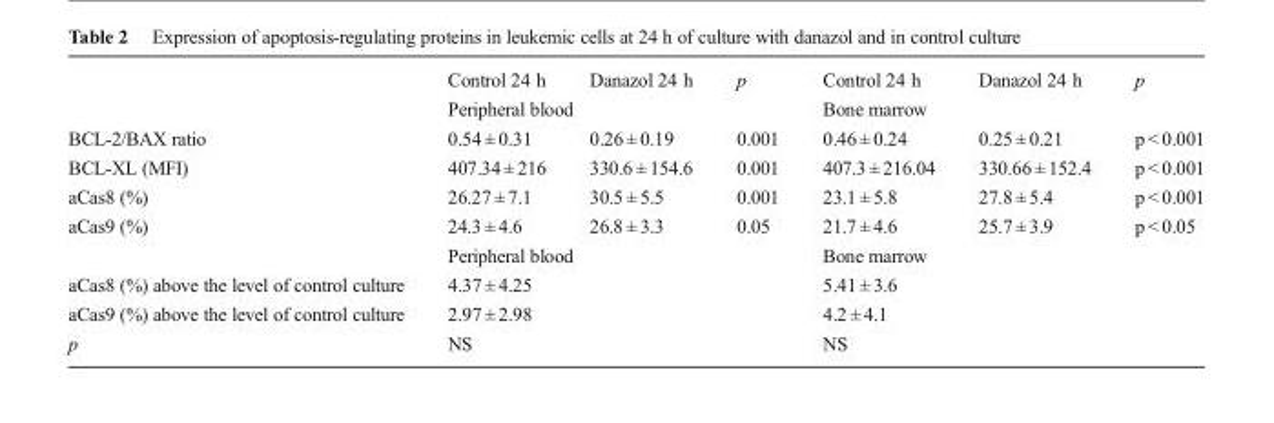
<table><thead><tr><td></td><td>Control 24 h</td><td>Danazol 24 h</td><td>p</td><td>Control 24 h</td><td>Danazol 24 h</td><td>p</td></tr></thead><tbody><tr><td></td><td colspan="2">Peripheral blood</td><td></td><td colspan="2">Bone marrow</td><td></td></tr><tr><td>BCL-2/BAX ratio</td><td>0.54 ± 0.31</td><td>0.26 ± 0.19</td><td>0.001</td><td>0.46 ± 0.24</td><td>0.25 ± 0.21</td><td>p &lt; 0.001</td></tr><tr><td>BCL-XL (MFI)</td><td>407.34 ± 216</td><td>330.6 ± 154.6</td><td>0.001</td><td>407.3 ± 216.04</td><td>330.66 ± 152.4</td><td>p &lt; 0.001</td></tr><tr><td>aCas8 (%)</td><td>26.27 ± 7.1</td><td>30.5 ± 5.5</td><td>0.001</td><td>23.1 ± 5.8</td><td>27.8 ± 5.4</td><td>p &lt; 0.001</td></tr><tr><td rowspan="2">aCas9 (%)</td><td>24.3 ± 4.6</td><td>26.8 ± 3.3</td><td>0.05</td><td>21.7 ± 4.6</td><td>25.7 ± 3.9</td><td>p &lt; 0.05</td></tr><tr><td colspan="2">Peripheral blood</td><td></td><td colspan="2">Bone marrow</td><td></td></tr><tr><td>aCas8 (%) above the level of control culture</td><td colspan="2">4.37 ± 4.25</td><td></td><td colspan="2">5.41 ± 3.6</td><td></td></tr><tr><td>aCas9 (%) above the level of control culture</td><td colspan="2">2.97 ± 2.98</td><td></td><td colspan="2">4.2 ± 4.1</td><td></td></tr><tr><td>p</td><td colspan="2">NS</td><td></td><td colspan="2">NS</td><td></td></tr></tbody></table>